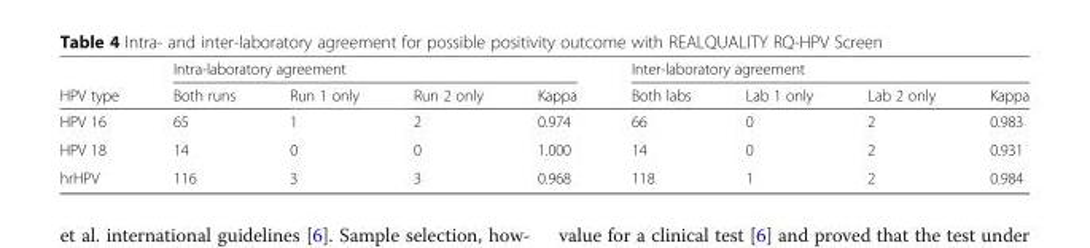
<table><thead><tr><td rowspan="2">HPV type</td><td colspan="4">Intra-laboratory agreement</td><td colspan="4">Inter-laboratory agreement</td></tr><tr><td>Both runs</td><td>Run 1 only</td><td>Run 2 only</td><td>Kappa</td><td>Both labs</td><td>Lab 1 only</td><td>Lab 2 only</td><td>Kappa</td></tr></thead><tbody><tr><td>HPV 16</td><td>65</td><td>1</td><td>2</td><td>0.974</td><td>66</td><td>0</td><td>2</td><td>0.983</td></tr><tr><td>HPV 18</td><td>14</td><td>0</td><td>0</td><td>1.000</td><td>14</td><td>0</td><td>2</td><td>0.931</td></tr><tr><td>hrHPV</td><td>116</td><td>3</td><td>3</td><td>0.968</td><td>118</td><td>1</td><td>2</td><td>0.984</td></tr></tbody></table>